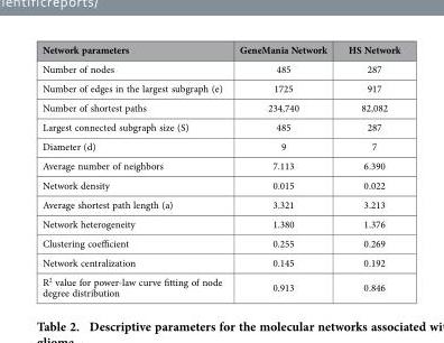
<table><thead><tr><td>Network parameters</td><td>GeneMania Network</td><td>HS Network</td></tr></thead><tbody><tr><td>Number of nodes</td><td>485</td><td>287</td></tr><tr><td>Number of edges in the largest subgraph (e)</td><td>1725</td><td>917</td></tr><tr><td>Number of shortest paths</td><td>234,740</td><td>82,082</td></tr><tr><td>Largest connected subgraph size (S)</td><td>485</td><td>287</td></tr><tr><td>Diameter (d)</td><td>9</td><td>7</td></tr><tr><td>Average number of neighbors</td><td>7.113</td><td>6.390</td></tr><tr><td>Network density</td><td>0.015</td><td>0.022</td></tr><tr><td>Average shortest path length (a)</td><td>3.321</td><td>3.213</td></tr><tr><td>Network heterogeneity</td><td>1.380</td><td>1.376</td></tr><tr><td>Clustering coefficient</td><td>0.255</td><td>0.269</td></tr><tr><td>Network centralization</td><td>0.145</td><td>0.192</td></tr><tr><td>R<sup>2</sup> value for power-law curve fitting of node degree distribution</td><td>0.913</td><td>0.846</td></tr></tbody></table>